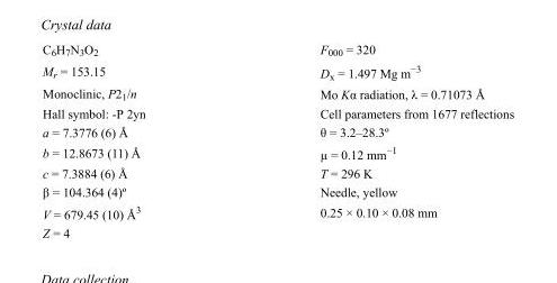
<table><tbody><tr><td>C<sub>6</sub>H<sub>7</sub>N<sub>3</sub>O<sub>2</sub></td><td>F000 = 320</td></tr><tr><td>M<sub>r</sub> = 153.15</td><td>D<sub>x</sub> = 1.497 Mg m<sup>−3</sup></td></tr><tr><td>Monoclinic, P2<sub>1</sub>/n</td><td>Mo Kα radiation, λ = 0.71073 Å</td></tr><tr><td>Hall symbol: -P 2yn</td><td>Cell parameters from 1677 reflections</td></tr><tr><td>a = 7.3776 (6) Å</td><td>θ = 3.2–28.3º</td></tr><tr><td>b = 12.8673 (11) Å</td><td>µ = 0.12 mm<sup>−1</sup></td></tr><tr><td>c = 7.3884 (6) Å</td><td>T = 296 K</td></tr><tr><td>β = 104.364 (4)º</td><td>Needle, yellow</td></tr><tr><td>V = 679.45 (10) Å<sup>3</sup></td><td>0.25 × 0.10 × 0.08 mm</td></tr><tr><td>Z = 4</td><td></td></tr></tbody></table>